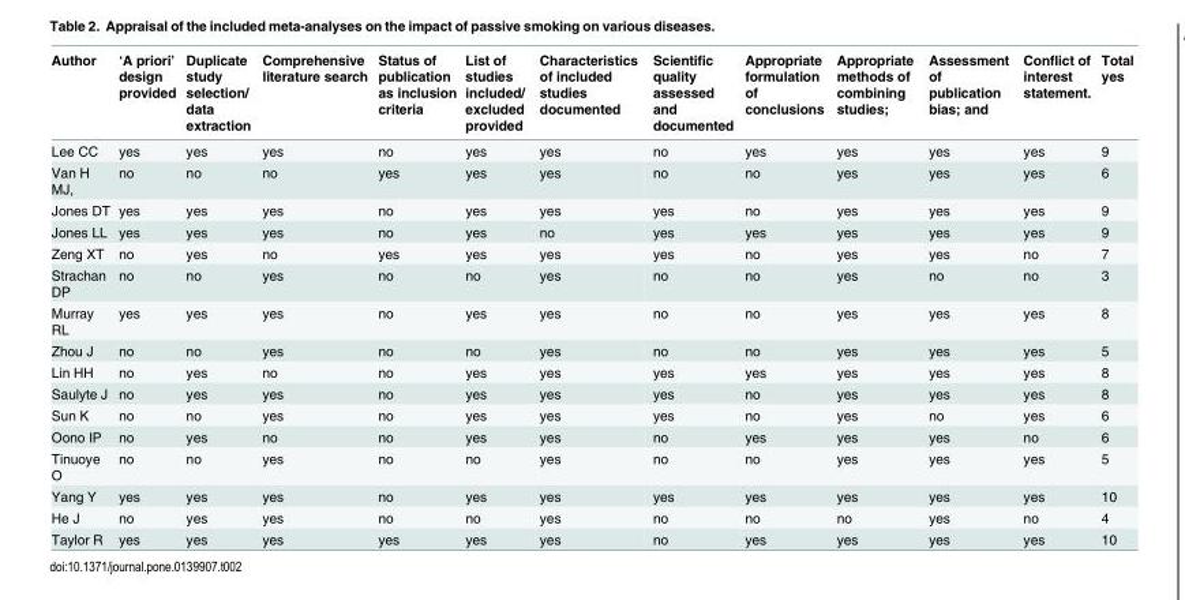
<table><thead><tr><td>Author</td><td>‘A priori’ design provided</td><td>Duplicate study selection/ data extraction</td><td>Comprehensive literature search</td><td>Status of publication as inclusion criteria</td><td>List of studies included/ excluded provided</td><td>Characteristics of included studies documented</td><td>Scientific quality assessed and documented</td><td>Appropriate formulation of conclusions</td><td>Appropriate methods of combining studies;</td><td>Assessment of publication bias; and</td><td>Conflict of interest statement.</td><td>Total yes</td></tr></thead><tbody><tr><td>Lee CC</td><td>yes</td><td>yes</td><td>yes</td><td>no</td><td>yes</td><td>yes</td><td>no</td><td>yes</td><td>yes</td><td>yes</td><td>yes</td><td>9</td></tr><tr><td>Van H MJ,</td><td>no</td><td>no</td><td>no</td><td>yes</td><td>yes</td><td>yes</td><td>no</td><td>no</td><td>yes</td><td>yes</td><td>yes</td><td>6</td></tr><tr><td>Jones DT</td><td>yes</td><td>yes</td><td>yes</td><td>no</td><td>yes</td><td>yes</td><td>yes</td><td>no</td><td>yes</td><td>yes</td><td>yes</td><td>9</td></tr><tr><td>Jones LL</td><td>yes</td><td>yes</td><td>yes</td><td>no</td><td>yes</td><td>no</td><td>yes</td><td>yes</td><td>yes</td><td>yes</td><td>yes</td><td>9</td></tr><tr><td>Zeng XT</td><td>no</td><td>yes</td><td>no</td><td>yes</td><td>yes</td><td>yes</td><td>yes</td><td>no</td><td>yes</td><td>yes</td><td>no</td><td>7</td></tr><tr><td>Strachan DP</td><td>no</td><td>no</td><td>yes</td><td>no</td><td>no</td><td>yes</td><td>no</td><td>no</td><td>yes</td><td>no</td><td>no</td><td>3</td></tr><tr><td>Murray RL</td><td>yes</td><td>yes</td><td>yes</td><td>no</td><td>yes</td><td>yes</td><td>no</td><td>no</td><td>yes</td><td>yes</td><td>yes</td><td>8</td></tr><tr><td>Zhou J</td><td>no</td><td>no</td><td>yes</td><td>no</td><td>no</td><td>yes</td><td>no</td><td>no</td><td>yes</td><td>yes</td><td>yes</td><td>5</td></tr><tr><td>Lin HH</td><td>no</td><td>yes</td><td>no</td><td>no</td><td>yes</td><td>yes</td><td>yes</td><td>yes</td><td>yes</td><td>yes</td><td>yes</td><td>8</td></tr><tr><td>Saulyte J</td><td>no</td><td>yes</td><td>yes</td><td>no</td><td>yes</td><td>yes</td><td>yes</td><td>no</td><td>yes</td><td>yes</td><td>yes</td><td>8</td></tr><tr><td>Sun K</td><td>no</td><td>no</td><td>yes</td><td>no</td><td>yes</td><td>yes</td><td>yes</td><td>no</td><td>yes</td><td>no</td><td>yes</td><td>6</td></tr><tr><td>Oono IP</td><td>no</td><td>yes</td><td>no</td><td>no</td><td>yes</td><td>yes</td><td>no</td><td>yes</td><td>yes</td><td>yes</td><td>no</td><td>6</td></tr><tr><td>Tinuoye O</td><td>no</td><td>no</td><td>yes</td><td>no</td><td>no</td><td>yes</td><td>no</td><td>no</td><td>yes</td><td>yes</td><td>yes</td><td>5</td></tr><tr><td>Yang Y</td><td>yes</td><td>yes</td><td>yes</td><td>no</td><td>yes</td><td>yes</td><td>yes</td><td>yes</td><td>yes</td><td>yes</td><td>yes</td><td>10</td></tr><tr><td>He J</td><td>no</td><td>yes</td><td>yes</td><td>no</td><td>no</td><td>yes</td><td>no</td><td>no</td><td>no</td><td>yes</td><td>no</td><td>4</td></tr><tr><td>Taylor R</td><td>yes</td><td>yes</td><td>yes</td><td>yes</td><td>yes</td><td>yes</td><td>no</td><td>yes</td><td>yes</td><td>yes</td><td>yes</td><td>10</td></tr></tbody></table>